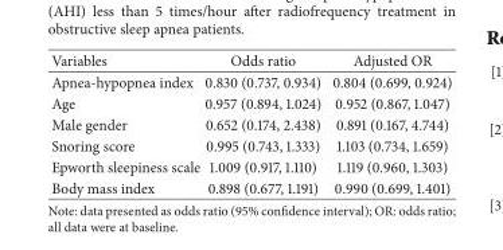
<table><thead><tr><td>Variables</td><td>Odds ratio</td><td>Adjusted OR</td></tr></thead><tbody><tr><td>Apnea-hypopnea index</td><td>0.830 (0.737, 0.934)</td><td>0.804 (0.699, 0.924)</td></tr><tr><td>Age</td><td>0.957 (0.894, 1.024)</td><td>0.952 (0.867, 1.047)</td></tr><tr><td>Male gender</td><td>0.652 (0.174, 2.438)</td><td>0.891 (0.167, 4.744)</td></tr><tr><td>Snoring score</td><td>0.995 (0.743, 1.333)</td><td>1.103 (0.734, 1.659)</td></tr><tr><td>Epworth sleepiness scale</td><td>1.009 (0.917, 1.110)</td><td>1.119 (0.960, 1.303)</td></tr><tr><td>Body mass index</td><td>0.898 (0.677, 1.191)</td><td>0.990 (0.699, 1.401)</td></tr></tbody></table>